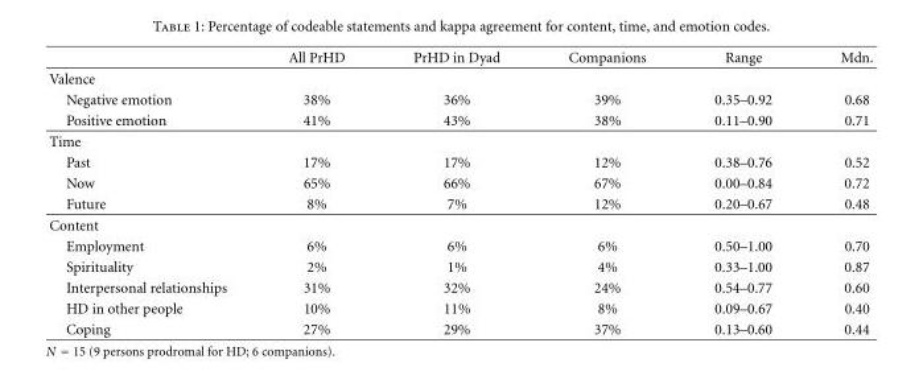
<table><thead><tr><td></td><td>All PrHD</td><td>PrHD in Dyad</td><td>Companions</td><td>Range</td><td>Mdn.</td></tr></thead><tbody><tr><td colspan="6">Valence</td></tr><tr><td>Negative emotion</td><td>38%</td><td>36%</td><td>39%</td><td>0.35–0.92</td><td>0.68</td></tr><tr><td>Positive emotion</td><td>41%</td><td>43%</td><td>38%</td><td>0.11–0.90</td><td>0.71</td></tr><tr><td colspan="6">Time</td></tr><tr><td>Past</td><td>17%</td><td>17%</td><td>12%</td><td>0.38–0.76</td><td>0.52</td></tr><tr><td>Now</td><td>65%</td><td>66%</td><td>67%</td><td>0.00–0.84</td><td>0.72</td></tr><tr><td>Future</td><td>8%</td><td>7%</td><td>12%</td><td>0.20–0.67</td><td>0.48</td></tr><tr><td colspan="6">Content</td></tr><tr><td>Employment</td><td>6%</td><td>6%</td><td>6%</td><td>0.50–1.00</td><td>0.70</td></tr><tr><td>Spirituality</td><td>2%</td><td>1%</td><td>4%</td><td>0.33–1.00</td><td>0.87</td></tr><tr><td>Interpersonal relationships</td><td>31%</td><td>32%</td><td>24%</td><td>0.54–0.77</td><td>0.60</td></tr><tr><td>HD in other people</td><td>10%</td><td>11%</td><td>8%</td><td>0.09–0.67</td><td>0.40</td></tr><tr><td>Coping</td><td>27%</td><td>29%</td><td>37%</td><td>0.13–0.60</td><td>0.44</td></tr></tbody></table>